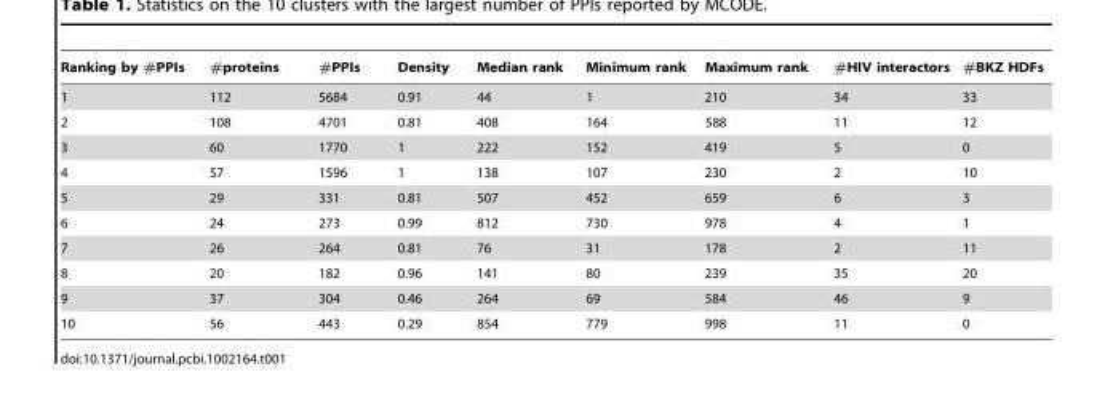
<table><thead><tr><td>Ranking by #PPIs</td><td>#proteins</td><td>#PPIs</td><td>Density</td><td>Median rank</td><td>Minimum rank</td><td>Maximum rank</td><td>#HIV interactors</td><td>#BKZ HDFs</td></tr></thead><tbody><tr><td>1</td><td>112</td><td>5684</td><td>0.91</td><td>44</td><td>1</td><td>210</td><td>34</td><td>33</td></tr><tr><td>2</td><td>108</td><td>4701</td><td>0.81</td><td>408</td><td>164</td><td>588</td><td>11</td><td>12</td></tr><tr><td>3</td><td>60</td><td>1770</td><td>1</td><td>222</td><td>152</td><td>419</td><td>5</td><td>0</td></tr><tr><td>4</td><td>57</td><td>1596</td><td>1</td><td>138</td><td>107</td><td>230</td><td>2</td><td>10</td></tr><tr><td>5</td><td>29</td><td>331</td><td>0.81</td><td>507</td><td>452</td><td>659</td><td>6</td><td>3</td></tr><tr><td>6</td><td>24</td><td>273</td><td>0.99</td><td>812</td><td>730</td><td>978</td><td>4</td><td>1</td></tr><tr><td>7</td><td>26</td><td>264</td><td>0.81</td><td>76</td><td>31</td><td>178</td><td>2</td><td>11</td></tr><tr><td>8</td><td>20</td><td>182</td><td>0.96</td><td>141</td><td>80</td><td>239</td><td>35</td><td>20</td></tr><tr><td>9</td><td>37</td><td>304</td><td>0.46</td><td>264</td><td>69</td><td>584</td><td>46</td><td>9</td></tr><tr><td>10</td><td>56</td><td>443</td><td>0.29</td><td>854</td><td>779</td><td>998</td><td>11</td><td>0</td></tr></tbody></table>